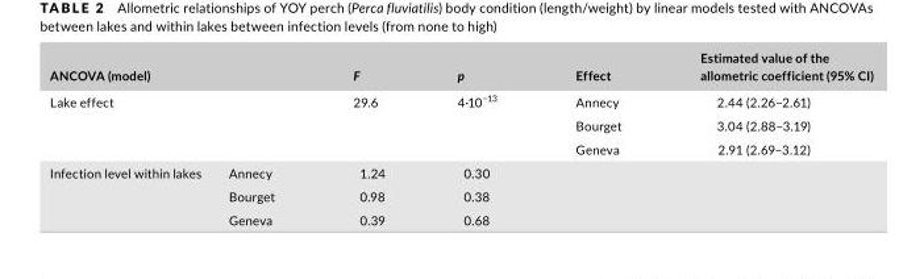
<table><thead><tr><td>ANCOVA (model)</td><td></td><td>F</td><td>p</td><td>Effect</td><td>Estimated value of the allometric coefficient (95% CI)</td></tr></thead><tbody><tr><td rowspan="3">Lake effect</td><td rowspan="3"></td><td rowspan="3">29.6</td><td rowspan="3">4·10<sup>−13</sup></td><td>Annecy</td><td>2.44 (2.26–2.61)</td></tr><tr><td>Bourget</td><td>3.04 (2.88–3.19)</td></tr><tr><td>Geneva</td><td>2.91 (2.69–3.12)</td></tr><tr><td rowspan="3">Infection level within lakes</td><td>Annecy</td><td>1.24</td><td>0.30</td><td rowspan="3" colspan="2"></td></tr><tr><td>Bourget</td><td>0.98</td><td>0.38</td></tr><tr><td>Geneva</td><td>0.39</td><td>0.68</td></tr></tbody></table>